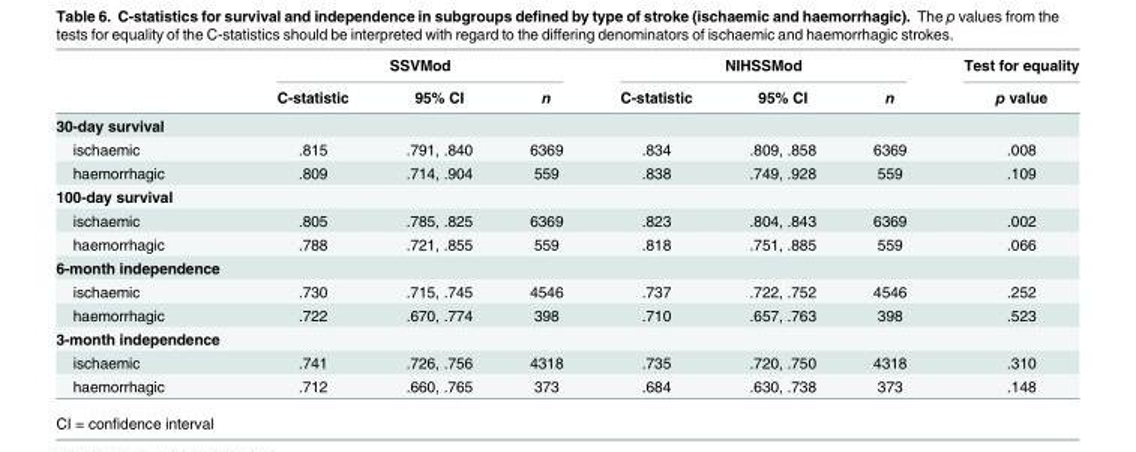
<table><thead><tr><td rowspan="2"></td><td colspan="3">SSVMod</td><td colspan="3">NIHSSMod</td><td rowspan="2">Test for equality p value</td></tr><tr><td>C-statistic</td><td>95% CI</td><td>n</td><td>C-statistic</td><td>95% CI</td><td>n</td></tr></thead><tbody><tr><td colspan="8">30-day survival</td></tr><tr><td>ischaemic</td><td>.815</td><td>.791, .840</td><td>6369</td><td>.834</td><td>.809, .858</td><td>6369</td><td>.008</td></tr><tr><td>haemorrhagic</td><td>.809</td><td>.714, .904</td><td>559</td><td>.838</td><td>.749, .928</td><td>559</td><td>.109</td></tr><tr><td colspan="8">100-day survival</td></tr><tr><td>ischaemic</td><td>.805</td><td>.785, .825</td><td>6369</td><td>.823</td><td>.804, .843</td><td>6369</td><td>.002</td></tr><tr><td>haemorrhagic</td><td>.788</td><td>.721, .855</td><td>559</td><td>.818</td><td>.751, .885</td><td>559</td><td>.066</td></tr><tr><td colspan="8">6-month independence</td></tr><tr><td>ischaemic</td><td>.730</td><td>.715, .745</td><td>4546</td><td>.737</td><td>.722, .752</td><td>4546</td><td>.252</td></tr><tr><td>haemorrhagic</td><td>.722</td><td>.670, .774</td><td>398</td><td>.710</td><td>.657, .763</td><td>398</td><td>.523</td></tr><tr><td colspan="8">3-month independence</td></tr><tr><td>ischaemic</td><td>.741</td><td>.726, .756</td><td>4318</td><td>.735</td><td>.720, .750</td><td>4318</td><td>.310</td></tr><tr><td>haemorrhagic</td><td>.712</td><td>.660, .765</td><td>373</td><td>.684</td><td>.630, .738</td><td>373</td><td>.148</td></tr></tbody></table>